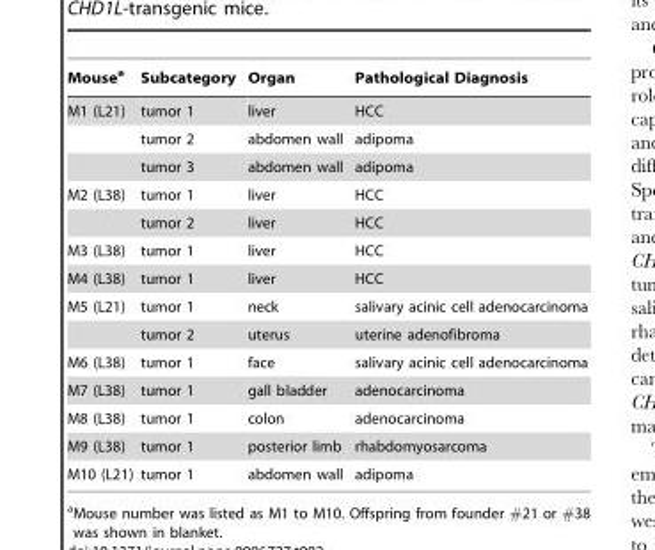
<table><thead><tr><td>Mouse<sup>a</sup></td><td>Subcategory</td><td>Organ</td><td>Pathological Diagnosis</td></tr></thead><tbody><tr><td rowspan="3">M1 (L21)</td><td>tumor 1</td><td>liver</td><td>HCC</td></tr><tr><td>tumor 2</td><td>abdomen wall</td><td>adipoma</td></tr><tr><td>tumor 3</td><td>abdomen wall</td><td>adipoma</td></tr><tr><td rowspan="2">M2 (L38)</td><td>tumor 1</td><td>liver</td><td>HCC</td></tr><tr><td>tumor 2</td><td>liver</td><td>HCC</td></tr><tr><td>M3 (L38)</td><td>tumor 1</td><td>liver</td><td>HCC</td></tr><tr><td>M4 (L38)</td><td>tumor 1</td><td>liver</td><td>HCC</td></tr><tr><td rowspan="2">M5 (L21)</td><td>tumor 1</td><td>neck</td><td>salivary acinic cell adenocarcinoma</td></tr><tr><td>tumor 2</td><td>uterus</td><td>uterine adenofibroma</td></tr><tr><td>M6 (L38)</td><td>tumor 1</td><td>face</td><td>salivary acinic cell adenocarcinoma</td></tr><tr><td>M7 (L38)</td><td>tumor 1</td><td>gall bladder</td><td>adenocarcinoma</td></tr><tr><td>M8 (L38)</td><td>tumor 1</td><td>colon</td><td>adenocarcinoma</td></tr><tr><td>M9 (L38)</td><td>tumor 1</td><td>posterior limb</td><td>rhabdomyosarcoma</td></tr><tr><td>M10 (L21)</td><td>tumor 1</td><td>abdomen wall</td><td>adipoma</td></tr></tbody></table>